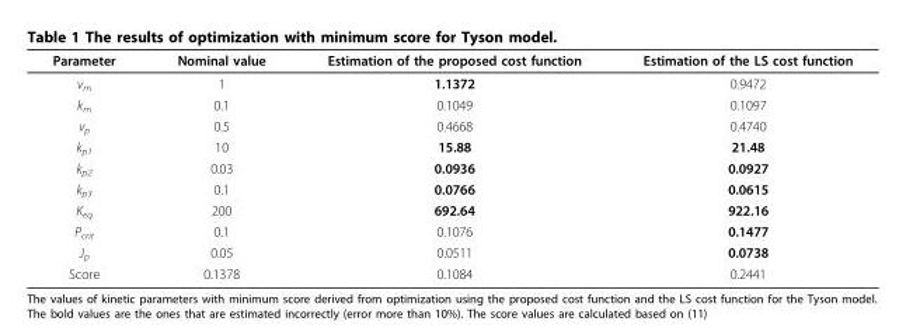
<table><thead><tr><td>Parameter</td><td>Nominal value</td><td>Estimation of the proposed cost function</td><td>Estimation of the LS cost function</td></tr></thead><tbody><tr><td>v<sub>m</sub></td><td>1</td><td>1.1372</td><td>0.9472</td></tr><tr><td>k<sub>m</sub></td><td>0.1</td><td>0.1049</td><td>0.1097</td></tr><tr><td>v<sub>p</sub></td><td>0.5</td><td>0.4668</td><td>0.4740</td></tr><tr><td>k<sub>p1</sub></td><td>10</td><td>15.88</td><td>21.48</td></tr><tr><td>k<sub>p2</sub></td><td>0.03</td><td>0.0936</td><td>0.0927</td></tr><tr><td>k<sub>p3</sub></td><td>0.1</td><td>0.0766</td><td>0.0615</td></tr><tr><td>K<sub>eq</sub></td><td>200</td><td>692.64</td><td>922.16</td></tr><tr><td>P<sub>crit</sub></td><td>0.1</td><td>0.1076</td><td>0.1477</td></tr><tr><td>J<sub>p</sub></td><td>0.05</td><td>0.0511</td><td>0.0738</td></tr><tr><td>Score</td><td>0.1378</td><td>0.1084</td><td>0.2441</td></tr></tbody></table>